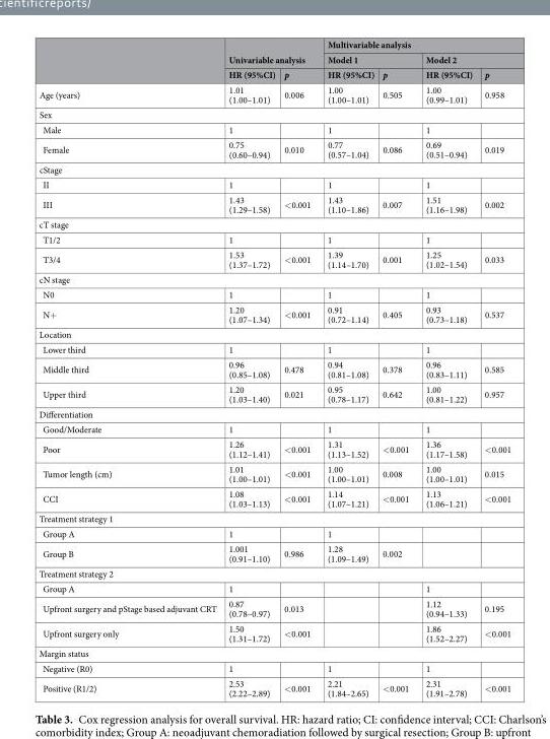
<table><thead><tr><td rowspan="3"></td><td rowspan="2" colspan="2">Univariable analysis</td><td colspan="4">Multivariable analysis</td></tr><tr><td colspan="2">Model 1</td><td colspan="2">Model 2</td></tr><tr><td>HR (95%CI)</td><td>p</td><td>HR (95%CI)</td><td>p</td><td>HR (95%CI)</td><td>p</td></tr></thead><tbody><tr><td>Age (years)</td><td>1.01 (1.00–1.01)</td><td>0.006</td><td>1.00 (1.00–1.01)</td><td>0.505</td><td>1.00 (0.99–1.01)</td><td>0.958</td></tr><tr><td colspan="7">Sex</td></tr><tr><td>Male</td><td>1</td><td></td><td>1</td><td></td><td>1</td><td></td></tr><tr><td>Female</td><td>0.75 (0.60–0.94)</td><td>0.010</td><td>0.77 (0.57–1.04)</td><td>0.086</td><td>0.69 (0.51–0.94)</td><td>0.019</td></tr><tr><td colspan="7">cStage</td></tr><tr><td>II</td><td>1</td><td></td><td>1</td><td></td><td>1</td><td></td></tr><tr><td>III</td><td>1.43 (1.29–1.58)</td><td>&lt;0.001</td><td>1.43 (1.10–1.86)</td><td>0.007</td><td>1.51 (1.16–1.98)</td><td>0.002</td></tr><tr><td colspan="7">cT stage</td></tr><tr><td>T1/2</td><td>1</td><td></td><td>1</td><td></td><td>1</td><td></td></tr><tr><td>T3/4</td><td>1.53 (1.37–1.72)</td><td>&lt;0.001</td><td>1.39 (1.14–1.70)</td><td>0.001</td><td>1.25 (1.02–1.54)</td><td>0.033</td></tr><tr><td colspan="7">cN stage</td></tr><tr><td>N0</td><td>1</td><td></td><td>1</td><td></td><td>1</td><td></td></tr><tr><td>N+</td><td>1.20 (1.07–1.34)</td><td>&lt;0.001</td><td>0.91 (0.72–1.14)</td><td>0.405</td><td>0.93 (0.73–1.18)</td><td>0.537</td></tr><tr><td colspan="7">Location</td></tr><tr><td>Lower third</td><td>1</td><td></td><td>1</td><td></td><td>1</td><td></td></tr><tr><td>Middle third</td><td>0.96 (0.85–1.08)</td><td>0.478</td><td>0.94 (0.81–1.08)</td><td>0.378</td><td>0.96 (0.83–1.11)</td><td>0.585</td></tr><tr><td>Upper third</td><td>1.20 (1.03–1.40)</td><td>0.021</td><td>0.95 (0.78–1.17)</td><td>0.642</td><td>1.00 (0.81–1.22)</td><td>0.957</td></tr><tr><td colspan="7">Differentiation</td></tr><tr><td>Good/Moderate</td><td>1</td><td></td><td>1</td><td></td><td>1</td><td></td></tr><tr><td>Poor</td><td>1.26 (1.12–1.41)</td><td>&lt;0.001</td><td>1.31 (1.13–1.52)</td><td>&lt;0.001</td><td>1.36 (1.17–1.58)</td><td>&lt;0.001</td></tr><tr><td>Tumor length (cm)</td><td>1.01 (1.00–1.01)</td><td>&lt;0.001</td><td>1.00 (1.00–1.01)</td><td>0.008</td><td>1.00 (1.00–1.01)</td><td>0.015</td></tr><tr><td>CCI</td><td>1.08 (1.03–1.13)</td><td>&lt;0.001</td><td>1.14 (1.07–1.21)</td><td>&lt;0.001</td><td>1.13 (1.06–1.21)</td><td>&lt;0.001</td></tr><tr><td colspan="7">Treatment strategy 1</td></tr><tr><td>Group A</td><td>1</td><td></td><td>1</td><td></td><td></td><td></td></tr><tr><td>Group B</td><td>1.001 (0.91–1.10)</td><td>0.986</td><td>1.28 (1.09–1.49)</td><td>0.002</td><td></td><td></td></tr><tr><td colspan="7">Treatment strategy 2</td></tr><tr><td>Group A</td><td>1</td><td></td><td></td><td></td><td>1</td><td></td></tr><tr><td>Upfront surgery and pStage based adjuvant CRT</td><td>0.87 (0.78–0.97)</td><td>0.013</td><td></td><td></td><td>1.12 (0.94–1.33)</td><td>0.195</td></tr><tr><td>Upfront surgery only</td><td>1.50 (1.31–1.72)</td><td>&lt;0.001</td><td></td><td></td><td>1.86 (1.52–2.27)</td><td>&lt;0.001</td></tr><tr><td colspan="7">Margin status</td></tr><tr><td>Negative (R0)</td><td>1</td><td></td><td>1</td><td></td><td>1</td><td></td></tr><tr><td>Positive (R1/2)</td><td>2.53 (2.22–2.89)</td><td>&lt;0.001</td><td>2.21 (1.84–2.65)</td><td>&lt;0.001</td><td>2.31 (1.91–2.78)</td><td>&lt;0.001</td></tr></tbody></table>